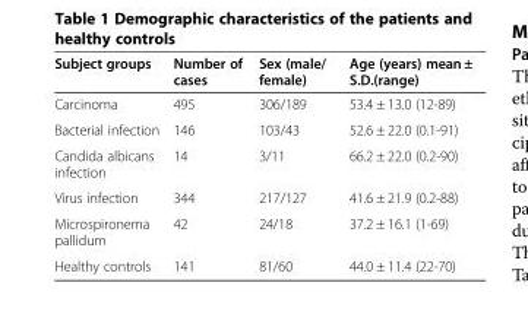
<table><thead><tr><td>Subject groups</td><td>Number of cases</td><td>Sex (male/ female)</td><td>Age (years) mean ± S.D.(range)</td></tr></thead><tbody><tr><td>Carcinoma</td><td>495</td><td>306/189</td><td>53.4 ± 13.0 (12-89)</td></tr><tr><td>Bacterial infection</td><td>146</td><td>103/43</td><td>52.6 ± 22.0 (0.1-91)</td></tr><tr><td>Candida albicans infection</td><td>14</td><td>3/11</td><td>66.2 ± 22.0 (0.2-90)</td></tr><tr><td>Virus infection</td><td>344</td><td>217/127</td><td>41.6 ± 21.9 (0.2-88)</td></tr><tr><td>Microspironema pallidum</td><td>42</td><td>24/18</td><td>37.2 ± 16.1 (1-69)</td></tr><tr><td>Healthy controls</td><td>141</td><td>81/60</td><td>44.0 ± 11.4 (22-70)</td></tr></tbody></table>